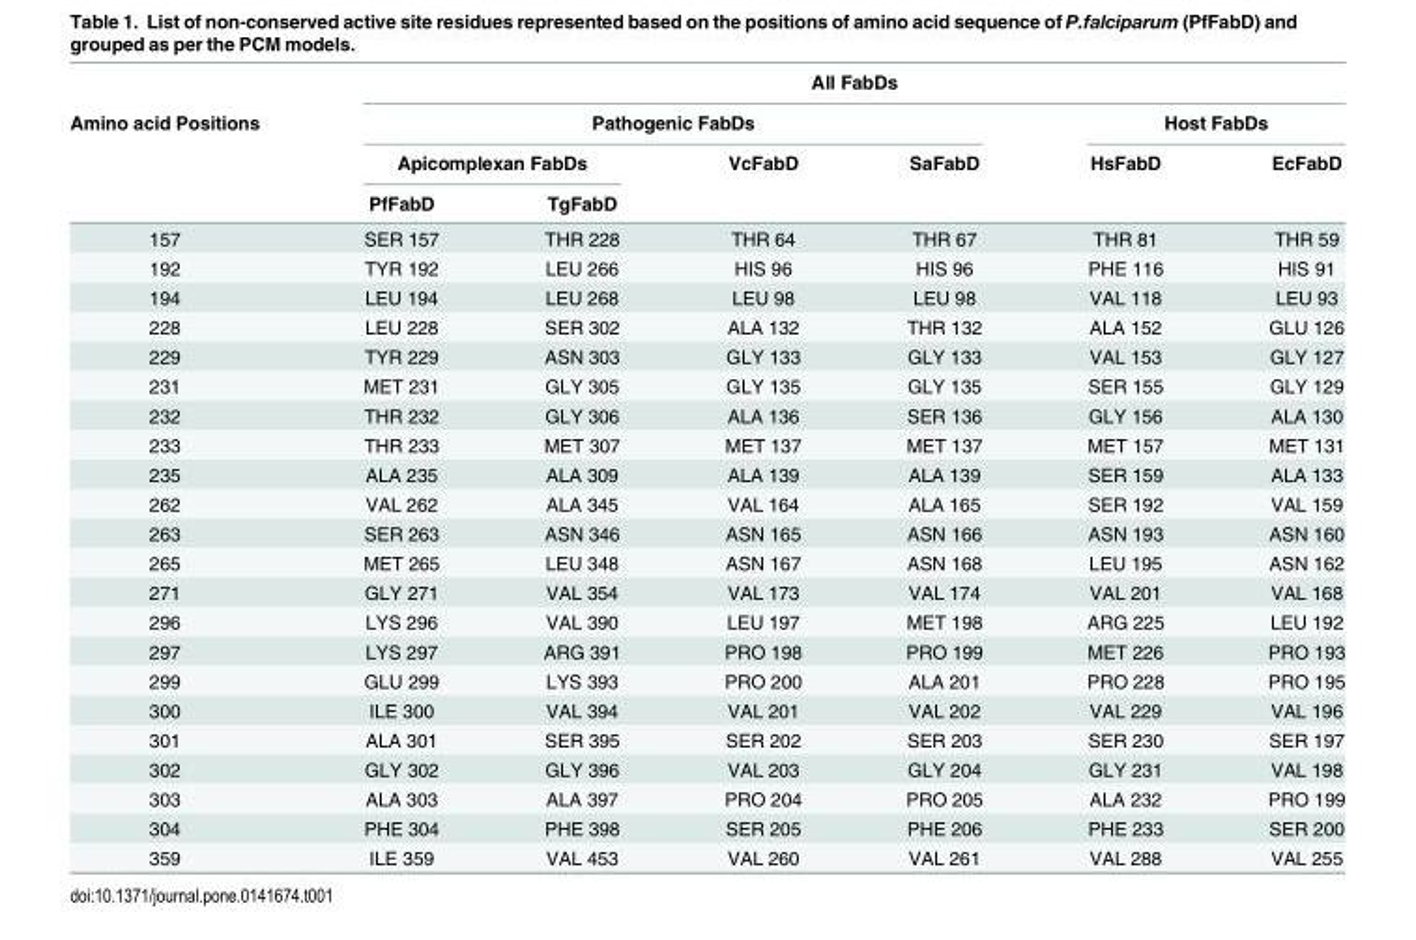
<table><thead><tr><td rowspan="4">Amino acid Positions</td><td colspan="6">All FabDs</td></tr><tr><td colspan="4">Pathogenic FabDs</td><td colspan="2">Host FabDs</td></tr><tr><td colspan="2">Apicomplexan FabDs</td><td rowspan="2">VcFabD</td><td rowspan="2">SaFabD</td><td rowspan="2">HsFabD</td><td rowspan="2">EcFabD</td></tr><tr><td>PfFabD</td><td>TgFabD</td></tr></thead><tbody><tr><td>157</td><td>SER 157</td><td>THR 228</td><td>THR 64</td><td>THR 67</td><td>THR 81</td><td>THR 59</td></tr><tr><td>192</td><td>TYR 192</td><td>LEU 266</td><td>HIS 96</td><td>HIS 96</td><td>PHE 116</td><td>HIS 91</td></tr><tr><td>194</td><td>LEU 194</td><td>LEU 268</td><td>LEU 98</td><td>LEU 98</td><td>VAL 118</td><td>LEU 93</td></tr><tr><td>228</td><td>LEU 228</td><td>SER 302</td><td>ALA 132</td><td>THR 132</td><td>ALA 152</td><td>GLU 126</td></tr><tr><td>229</td><td>TYR 229</td><td>ASN 303</td><td>GLY 133</td><td>GLY 133</td><td>VAL 153</td><td>GLY 127</td></tr><tr><td>231</td><td>MET 231</td><td>GLY 305</td><td>GLY 135</td><td>GLY 135</td><td>SER 155</td><td>GLY 129</td></tr><tr><td>232</td><td>THR 232</td><td>GLY 306</td><td>ALA 136</td><td>SER 136</td><td>GLY 156</td><td>ALA 130</td></tr><tr><td>233</td><td>THR 233</td><td>MET 307</td><td>MET 137</td><td>MET 137</td><td>MET 157</td><td>MET 131</td></tr><tr><td>235</td><td>ALA 235</td><td>ALA 309</td><td>ALA 139</td><td>ALA 139</td><td>SER 159</td><td>ALA 133</td></tr><tr><td>262</td><td>VAL 262</td><td>ALA 345</td><td>VAL 164</td><td>ALA 165</td><td>SER 192</td><td>VAL 159</td></tr><tr><td>263</td><td>SER 263</td><td>ASN 346</td><td>ASN 165</td><td>ASN 166</td><td>ASN 193</td><td>ASN 160</td></tr><tr><td>265</td><td>MET 265</td><td>LEU 348</td><td>ASN 167</td><td>ASN 168</td><td>LEU 195</td><td>ASN 162</td></tr><tr><td>271</td><td>GLY 271</td><td>VAL 354</td><td>VAL 173</td><td>VAL 174</td><td>VAL 201</td><td>VAL 168</td></tr><tr><td>296</td><td>LYS 296</td><td>VAL 390</td><td>LEU 197</td><td>MET 198</td><td>ARG 225</td><td>LEU 192</td></tr><tr><td>297</td><td>LYS 297</td><td>ARG 391</td><td>PRO 198</td><td>PRO 199</td><td>MET 226</td><td>PRO 193</td></tr><tr><td>299</td><td>GLU 299</td><td>LYS 393</td><td>PRO 200</td><td>ALA 201</td><td>PRO 228</td><td>PRO 195</td></tr><tr><td>300</td><td>ILE 300</td><td>VAL 394</td><td>VAL 201</td><td>VAL 202</td><td>VAL 229</td><td>VAL 196</td></tr><tr><td>301</td><td>ALA 301</td><td>SER 395</td><td>SER 202</td><td>SER 203</td><td>SER 230</td><td>SER 197</td></tr><tr><td>302</td><td>GLY 302</td><td>GLY 396</td><td>VAL 203</td><td>GLY 204</td><td>GLY 231</td><td>VAL 198</td></tr><tr><td>303</td><td>ALA 303</td><td>ALA 397</td><td>PRO 204</td><td>PRO 205</td><td>ALA 232</td><td>PRO 199</td></tr><tr><td>304</td><td>PHE 304</td><td>PHE 398</td><td>SER 205</td><td>PHE 206</td><td>PHE 233</td><td>SER 200</td></tr><tr><td>359</td><td>ILE 359</td><td>VAL 453</td><td>VAL 260</td><td>VAL 261</td><td>VAL 288</td><td>VAL 255</td></tr></tbody></table>